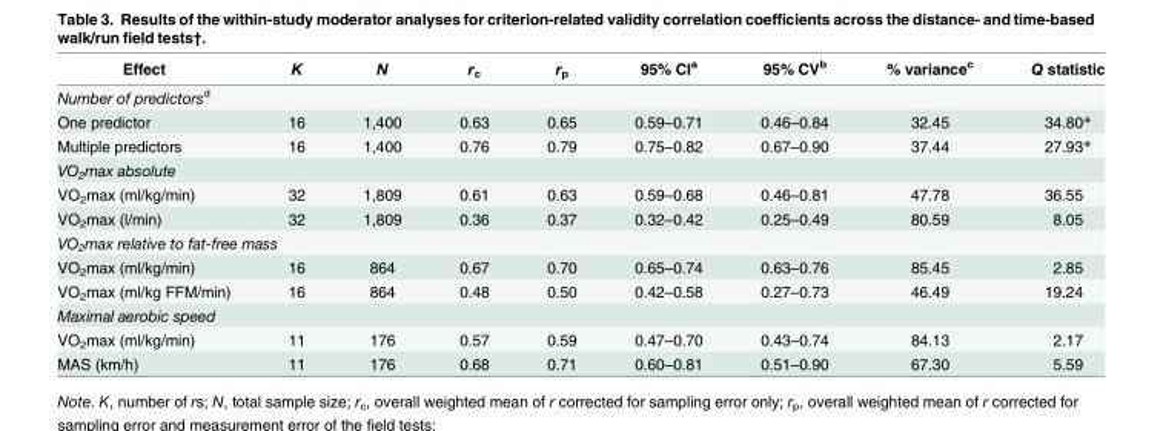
<table><thead><tr><td>Effect</td><td>K</td><td>N</td><td>r<sub>c</sub></td><td>r<sub>p</sub></td><td>95% CI<sup>a</sup></td><td>95% CV<sup>b</sup></td><td>% variance<sup>c</sup></td><td>Q statistic</td></tr></thead><tbody><tr><td colspan="9">Number of predictors<sup>d</sup></td></tr><tr><td>One predictor</td><td>16</td><td>1,400</td><td>0.63</td><td>0.65</td><td>0.59–0.71</td><td>0.46–0.84</td><td>32.45</td><td>34.80*</td></tr><tr><td>Multiple predictors</td><td>16</td><td>1,400</td><td>0.76</td><td>0.79</td><td>0.75–0.82</td><td>0.67–0.90</td><td>37.44</td><td>27.93*</td></tr><tr><td colspan="9">VO<sub>2</sub>max absolute</td></tr><tr><td>VO<sub>2</sub>max (ml/kg/min)</td><td>32</td><td>1,809</td><td>0.61</td><td>0.63</td><td>0.59–0.68</td><td>0.46–0.81</td><td>47.78</td><td>36.55</td></tr><tr><td>VO<sub>2</sub>max (l/min)</td><td>32</td><td>1,809</td><td>0.36</td><td>0.37</td><td>0.32–0.42</td><td>0.25–0.49</td><td>80.59</td><td>8.05</td></tr><tr><td colspan="9">VO<sub>2</sub>max relative to fat-free mass</td></tr><tr><td>VO<sub>2</sub>max (ml/kg/min)</td><td>16</td><td>864</td><td>0.67</td><td>0.70</td><td>0.65–0.74</td><td>0.63–0.76</td><td>85.45</td><td>2.85</td></tr><tr><td>VO<sub>2</sub>max (ml/kg FFM/min)</td><td>16</td><td>864</td><td>0.48</td><td>0.50</td><td>0.42–0.58</td><td>0.27–0.73</td><td>46.49</td><td>19.24</td></tr><tr><td colspan="9">Maximal aerobic speed</td></tr><tr><td>VO<sub>2</sub>max (ml/kg/min)</td><td>11</td><td>176</td><td>0.57</td><td>0.59</td><td>0.47–0.70</td><td>0.43–0.74</td><td>84.13</td><td>2.17</td></tr><tr><td>MAS (km/h)</td><td>11</td><td>176</td><td>0.68</td><td>0.71</td><td>0.60–0.81</td><td>0.51–0.90</td><td>67.30</td><td>5.59</td></tr></tbody></table>